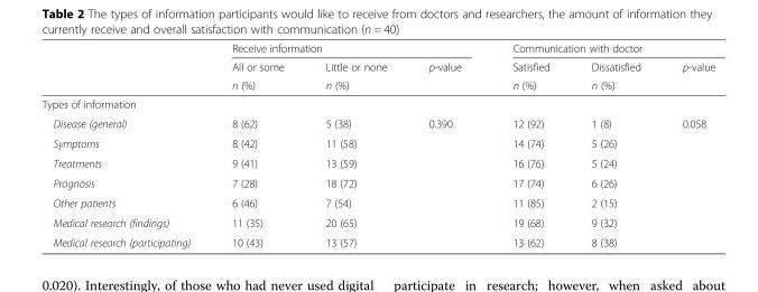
<table><thead><tr><td rowspan="3"></td><td colspan="3">Receive information</td><td colspan="3">Communication with doctor</td></tr><tr><td rowspan="2">All or some n (%)</td><td rowspan="2">Little or none n (%)</td><td rowspan="2">p-value</td><td rowspan="2">Satisfied n (%)</td><td rowspan="2">Dissatisfied n (%)</td><td rowspan="2">p-value</td></tr><tr></tr></thead><tbody><tr><td colspan="7">Types of information</td></tr><tr><td>Disease (general)</td><td>8 (62)</td><td>5 (38)</td><td>0.390</td><td>12 (92)</td><td>1 (8)</td><td>0.058</td></tr><tr><td>Symptoms</td><td>8 (42)</td><td>11 (58)</td><td></td><td>14 (74)</td><td>5 (26)</td><td></td></tr><tr><td>Treatments</td><td>9 (41)</td><td>13 (59)</td><td></td><td>16 (76)</td><td>5 (24)</td><td></td></tr><tr><td>Prognosis</td><td>7 (28)</td><td>18 (72)</td><td></td><td>17 (74)</td><td>6 (26)</td><td></td></tr><tr><td>Other patients</td><td>6 (46)</td><td>7 (54)</td><td></td><td>11 (85)</td><td>2 (15)</td><td></td></tr><tr><td>Medical research (findings)</td><td>11 (35)</td><td>20 (65)</td><td></td><td>19 (68)</td><td>9 (32)</td><td></td></tr><tr><td>Medical research (participating)</td><td>10 (43)</td><td>13 (57)</td><td></td><td>13 (62)</td><td>8 (38)</td><td></td></tr></tbody></table>